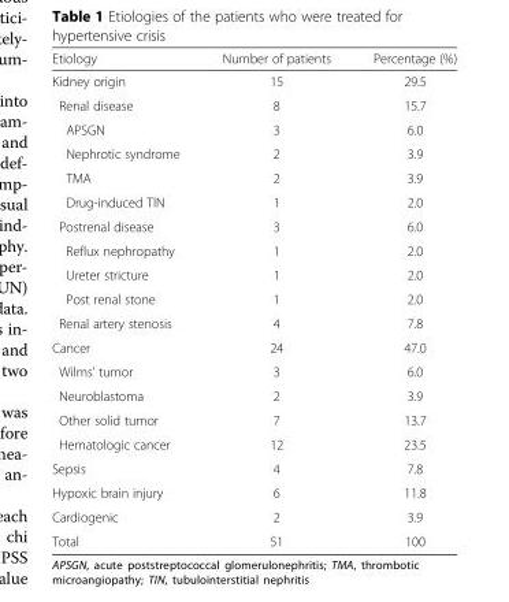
<table><thead><tr><td>Etiology</td><td>Number of patients</td><td>Percentage (%)</td></tr></thead><tbody><tr><td>Kidney origin</td><td>15</td><td>29.5</td></tr><tr><td>Renal disease</td><td>8</td><td>15.7</td></tr><tr><td>APSGN</td><td>3</td><td>6.0</td></tr><tr><td>Nephrotic syndrome</td><td>2</td><td>3.9</td></tr><tr><td>TMA</td><td>2</td><td>3.9</td></tr><tr><td>Drug-induced TIN</td><td>1</td><td>2.0</td></tr><tr><td>Postrenal disease</td><td>3</td><td>6.0</td></tr><tr><td>Reflux nephropathy</td><td>1</td><td>2.0</td></tr><tr><td>Ureter stricture</td><td>1</td><td>2.0</td></tr><tr><td>Post renal stone</td><td>1</td><td>2.0</td></tr><tr><td>Renal artery stenosis</td><td>4</td><td>7.8</td></tr><tr><td>Cancer</td><td>24</td><td>47.0</td></tr><tr><td>Wilms’ tumor</td><td>3</td><td>6.0</td></tr><tr><td>Neuroblastoma</td><td>2</td><td>3.9</td></tr><tr><td>Other solid tumor</td><td>7</td><td>13.7</td></tr><tr><td>Hematologic cancer</td><td>12</td><td>23.5</td></tr><tr><td>Sepsis</td><td>4</td><td>7.8</td></tr><tr><td>Hypoxic brain injury</td><td>6</td><td>11.8</td></tr><tr><td>Cardiogenic</td><td>2</td><td>3.9</td></tr><tr><td>Total</td><td>51</td><td>100</td></tr></tbody></table>